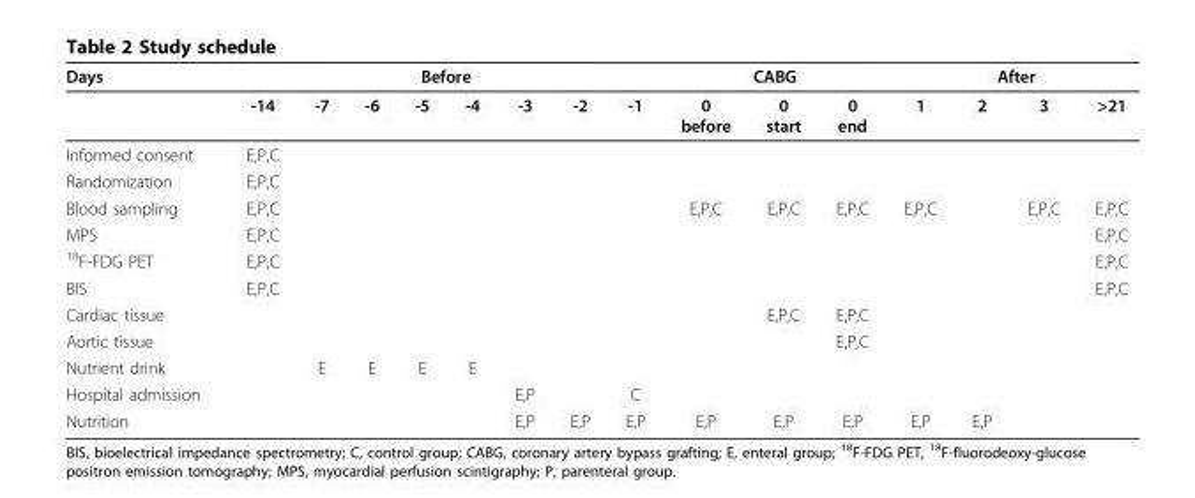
<table><thead><tr><td rowspan="2">Days</td><td colspan="8">Before</td><td colspan="3">CABG</td><td colspan="4">After</td></tr><tr><td>-14</td><td>-7</td><td>-6</td><td>-5</td><td>-4</td><td>-3</td><td>-2</td><td>-1</td><td>0 before</td><td>0 start</td><td>0 end</td><td>1</td><td>2</td><td>3</td><td>&gt;21</td></tr></thead><tbody><tr><td>Informed consent</td><td>E,P,C</td><td></td><td></td><td></td><td></td><td></td><td></td><td></td><td></td><td></td><td></td><td></td><td></td><td></td><td></td></tr><tr><td>Randomization</td><td>E,P,C</td><td></td><td></td><td></td><td></td><td></td><td></td><td></td><td></td><td></td><td></td><td></td><td></td><td></td><td></td></tr><tr><td>Blood sampling</td><td>E,P,C</td><td></td><td></td><td></td><td></td><td></td><td></td><td></td><td>E,P,C</td><td>E,P,C</td><td>E,P,C</td><td>E,P,C</td><td></td><td>E,P,C</td><td>E,P,C</td></tr><tr><td>MPS</td><td>E,P,C</td><td></td><td></td><td></td><td></td><td></td><td></td><td></td><td></td><td></td><td></td><td></td><td></td><td></td><td>E,P,C</td></tr><tr><td><sup>18</sup>F-FDG PET</td><td>E,P,C</td><td></td><td></td><td></td><td></td><td></td><td></td><td></td><td></td><td></td><td></td><td></td><td></td><td></td><td>E,P,C</td></tr><tr><td>BIS</td><td>E,P,C</td><td></td><td></td><td></td><td></td><td></td><td></td><td></td><td></td><td></td><td></td><td></td><td></td><td></td><td>E,P,C</td></tr><tr><td>Cardiac tissue</td><td></td><td></td><td></td><td></td><td></td><td></td><td></td><td></td><td></td><td>E,P,C</td><td>E,P,C</td><td></td><td></td><td></td><td></td></tr><tr><td>Aortic tissue</td><td></td><td></td><td></td><td></td><td></td><td></td><td></td><td></td><td></td><td></td><td>E,P,C</td><td></td><td></td><td></td><td></td></tr><tr><td>Nutrient drink</td><td></td><td>E</td><td>E</td><td>E</td><td>E</td><td></td><td></td><td></td><td></td><td></td><td></td><td></td><td></td><td></td><td></td></tr><tr><td>Hospital admission</td><td></td><td></td><td></td><td></td><td></td><td>E,P</td><td></td><td>C</td><td></td><td></td><td></td><td></td><td></td><td></td><td></td></tr><tr><td>Nutrition</td><td></td><td></td><td></td><td></td><td></td><td>E,P</td><td>E,P</td><td>E,P</td><td>E,P</td><td>E,P</td><td>E,P</td><td>E,P</td><td>E,P</td><td></td><td></td></tr></tbody></table>